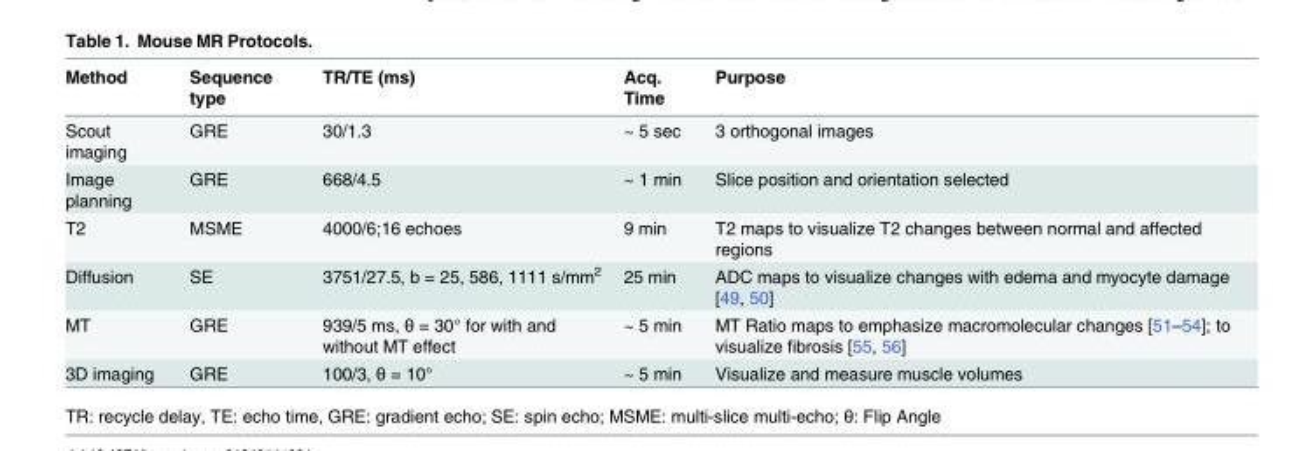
<table><thead><tr><td>Method</td><td>Sequence type</td><td>TR/TE (ms)</td><td>Acq. Time</td><td>Purpose</td></tr></thead><tbody><tr><td>Scout imaging</td><td>GRE</td><td>30/1.3</td><td>~ 5 sec</td><td>3 orthogonal images</td></tr><tr><td>Image planning</td><td>GRE</td><td>668/4.5</td><td>~ 1 min</td><td>Slice position and orientation selected</td></tr><tr><td>T2</td><td>MSME</td><td>4000/6;16 echoes</td><td>9 min</td><td>T2 maps to visualize T2 changes between normal and affected regions</td></tr><tr><td>Diffusion</td><td>SE</td><td>3751/27.5, b = 25, 586, 1111 s/mm<sup>2</sup></td><td>25 min</td><td>ADC maps to visualize changes with edema and myocyte damage [49, 50]</td></tr><tr><td>MT</td><td>GRE</td><td>939/5 ms, θ = 30° for with and without MT effect</td><td>~ 5 min</td><td>MT Ratio maps to emphasize macromolecular changes [51–54]; to visualize fibrosis [55, 56]</td></tr><tr><td>3D imaging</td><td>GRE</td><td>100/3, θ = 10°</td><td>~ 5 min</td><td>Visualize and measure muscle volumes</td></tr></tbody></table>